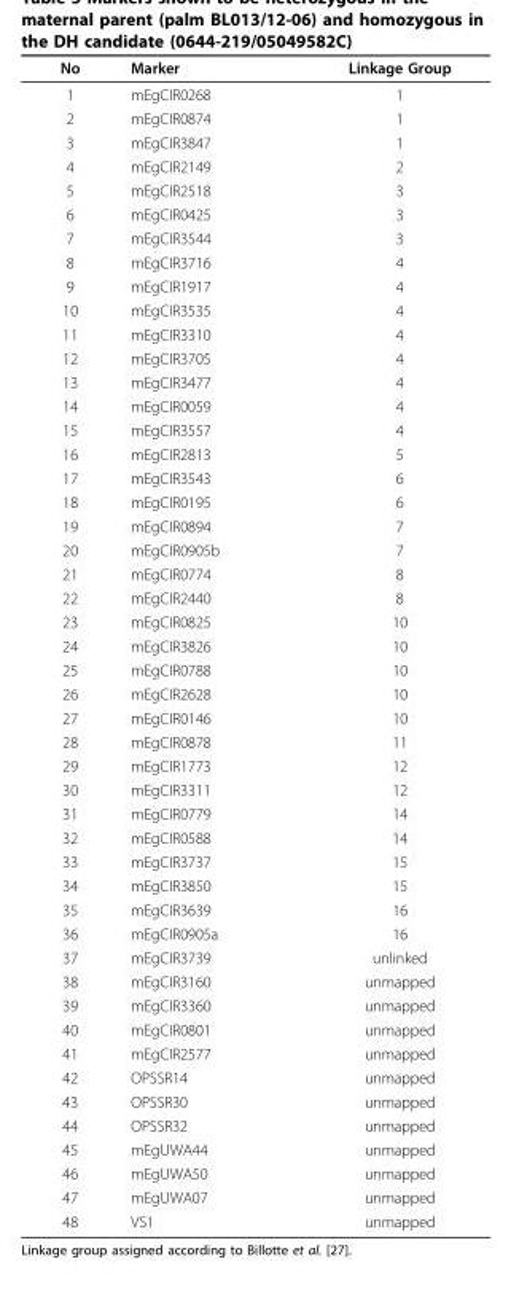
<table><thead><tr><td>No</td><td>Marker</td><td>Linkage Group</td></tr></thead><tbody><tr><td>1</td><td>mEgCIR0268</td><td>1</td></tr><tr><td>2</td><td>mEgCIR0874</td><td>1</td></tr><tr><td>3</td><td>mEgCIR3847</td><td>1</td></tr><tr><td>4</td><td>mEgCIR2149</td><td>2</td></tr><tr><td>5</td><td>mEgCIR2518</td><td>3</td></tr><tr><td>6</td><td>mEgCIR0425</td><td>3</td></tr><tr><td>7</td><td>mEgCIR3544</td><td>3</td></tr><tr><td>8</td><td>mEgCIR3716</td><td>4</td></tr><tr><td>9</td><td>mEgCIR1917</td><td>4</td></tr><tr><td>10</td><td>mEgCIR3535</td><td>4</td></tr><tr><td>11</td><td>mEgCIR3310</td><td>4</td></tr><tr><td>12</td><td>mEgCIR3705</td><td>4</td></tr><tr><td>13</td><td>mEgCIR3477</td><td>4</td></tr><tr><td>14</td><td>mEgCIR0059</td><td>4</td></tr><tr><td>15</td><td>mEgCIR3557</td><td>4</td></tr><tr><td>16</td><td>mEgCIR2813</td><td>5</td></tr><tr><td>17</td><td>mEgCIR3543</td><td>6</td></tr><tr><td>18</td><td>mEgCIR0195</td><td>6</td></tr><tr><td>19</td><td>mEgCIR0894</td><td>7</td></tr><tr><td>20</td><td>mEgCIR0905b</td><td>7</td></tr><tr><td>21</td><td>mEgCIR0774</td><td>8</td></tr><tr><td>22</td><td>mEgCIR2440</td><td>8</td></tr><tr><td>23</td><td>mEgCIR0825</td><td>10</td></tr><tr><td>24</td><td>mEgCIR3826</td><td>10</td></tr><tr><td>25</td><td>mEgCIR0788</td><td>10</td></tr><tr><td>26</td><td>mEgCIR2628</td><td>10</td></tr><tr><td>27</td><td>mEgCIR0146</td><td>10</td></tr><tr><td>28</td><td>mEgCIR0878</td><td>11</td></tr><tr><td>29</td><td>mEgCIR1773</td><td>12</td></tr><tr><td>30</td><td>mEgCIR3311</td><td>12</td></tr><tr><td>31</td><td>mEgCIR0779</td><td>14</td></tr><tr><td>32</td><td>mEgCIR0588</td><td>14</td></tr><tr><td>33</td><td>mEgCIR3737</td><td>15</td></tr><tr><td>34</td><td>mEgCIR3850</td><td>15</td></tr><tr><td>35</td><td>mEgCIR3639</td><td>16</td></tr><tr><td>36</td><td>mEgCIR0905a</td><td>16</td></tr><tr><td>37</td><td>mEgCIR3739</td><td>unlinked</td></tr><tr><td>38</td><td>mEgCIR3160</td><td>unmapped</td></tr><tr><td>39</td><td>mEgCIR3360</td><td>unmapped</td></tr><tr><td>40</td><td>mEgCIR0801</td><td>unmapped</td></tr><tr><td>41</td><td>mEgCIR2577</td><td>unmapped</td></tr><tr><td>42</td><td>OPSSR14</td><td>unmapped</td></tr><tr><td>43</td><td>OPSSR30</td><td>unmapped</td></tr><tr><td>44</td><td>OPSSR32</td><td>unmapped</td></tr><tr><td>45</td><td>mEgUWA44</td><td>unmapped</td></tr><tr><td>46</td><td>mEgUWA50</td><td>unmapped</td></tr><tr><td>47</td><td>mEgUWA07</td><td>unmapped</td></tr><tr><td>48</td><td>VS1</td><td>unmapped</td></tr></tbody></table>